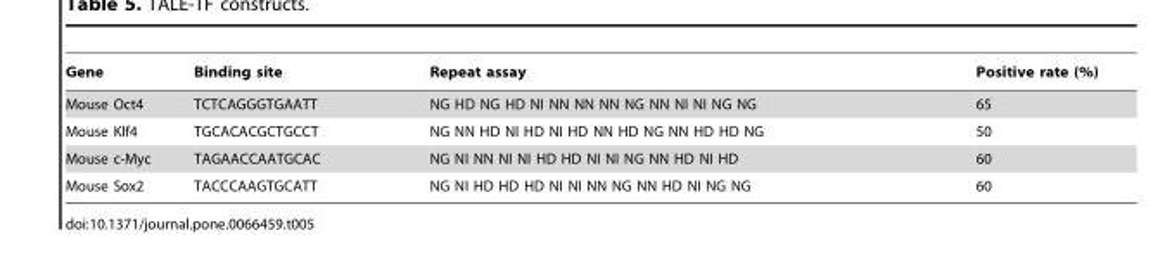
<table><thead><tr><td>Gene</td><td>Binding site</td><td>Repeat assay</td><td>Positive rate (%)</td></tr></thead><tbody><tr><td>Mouse Oct4</td><td>TCTCAGGGTGAATT</td><td>NG HD NG HD NI NN NN NN NG NN NI NI NG NG</td><td>65</td></tr><tr><td>Mouse Klf4</td><td>TGCACACGCTGCCT</td><td>NG NN HD NI HD NI HD NN HD NG NN HD HD NG</td><td>50</td></tr><tr><td>Mouse c-Myc</td><td>TAGAACCAATGCAC</td><td>NG NI NN NI NI HD HD NI NI NG NN HD NI HD</td><td>60</td></tr><tr><td>Mouse Sox2</td><td>TACCCAAGTGCATT</td><td>NG NI HD HD HD NI NI NN NG NN HD NI NG NG</td><td>60</td></tr></tbody></table>